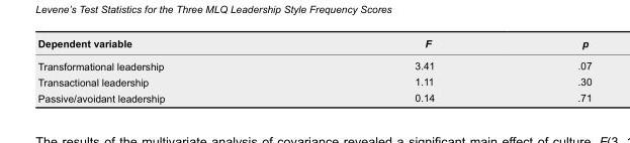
<table><thead><tr><td>Dependent variable</td><td>F</td><td>p</td></tr></thead><tbody><tr><td>Transformational leadership</td><td>3.41</td><td>.07</td></tr><tr><td>Transactional leadership</td><td>1.11</td><td>.30</td></tr><tr><td>Passive/avoidant leadership</td><td>0.14</td><td>.71</td></tr></tbody></table>